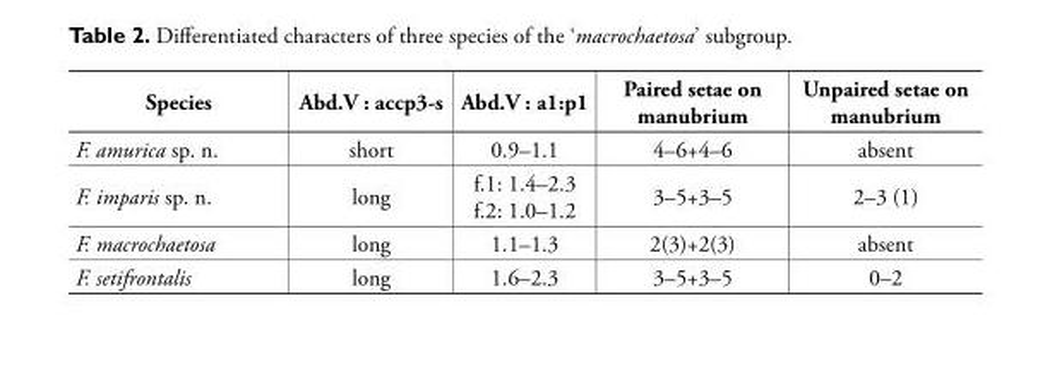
<table><thead><tr><td>Species</td><td>Abd.V : accp3-s</td><td>Abd.V : a1:p1</td><td>Paired setae on manubrium</td><td>Unpaired setae on manubrium</td></tr></thead><tbody><tr><td>F. amurica sp. n.</td><td>short</td><td>0.9–1.1</td><td>4–6+4–6</td><td>absent</td></tr><tr><td>F. imparis sp. n.</td><td>long</td><td>f.1: 1.4–2.3 f.2: 1.0–1.2</td><td>3–5+3–5</td><td>2–3 (1)</td></tr><tr><td>F. macrochaetosa</td><td>long</td><td>1.1–1.3</td><td>2(3)+2(3)</td><td>absent</td></tr><tr><td>F. setifrontalis</td><td>long</td><td>1.6–2.3</td><td>3–5+3–5</td><td>0–2</td></tr></tbody></table>